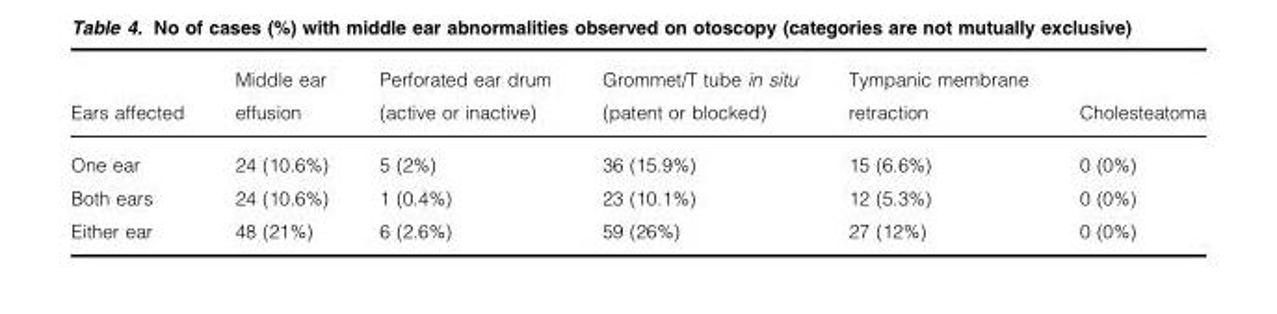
<table><thead><tr><td>Ears affected</td><td>Middle ear effusion</td><td>Perforated ear drum (active or inactive)</td><td>Grommet/T tube in situ (patent or blocked)</td><td>Tympanic membrane retraction</td><td>Cholesteatoma</td></tr></thead><tbody><tr><td>One ear</td><td>24 (10.6%)</td><td>5 (2%)</td><td>36 (15.9%)</td><td>15 (6.6%)</td><td>0 (0%)</td></tr><tr><td>Both ears</td><td>24 (10.6%)</td><td>1 (0.4%)</td><td>23 (10.1%)</td><td>12 (5.3%)</td><td>0 (0%)</td></tr><tr><td>Either ear</td><td>48 (21%)</td><td>6 (2.6%)</td><td>59 (26%)</td><td>27 (12%)</td><td>0 (0%)</td></tr></tbody></table>